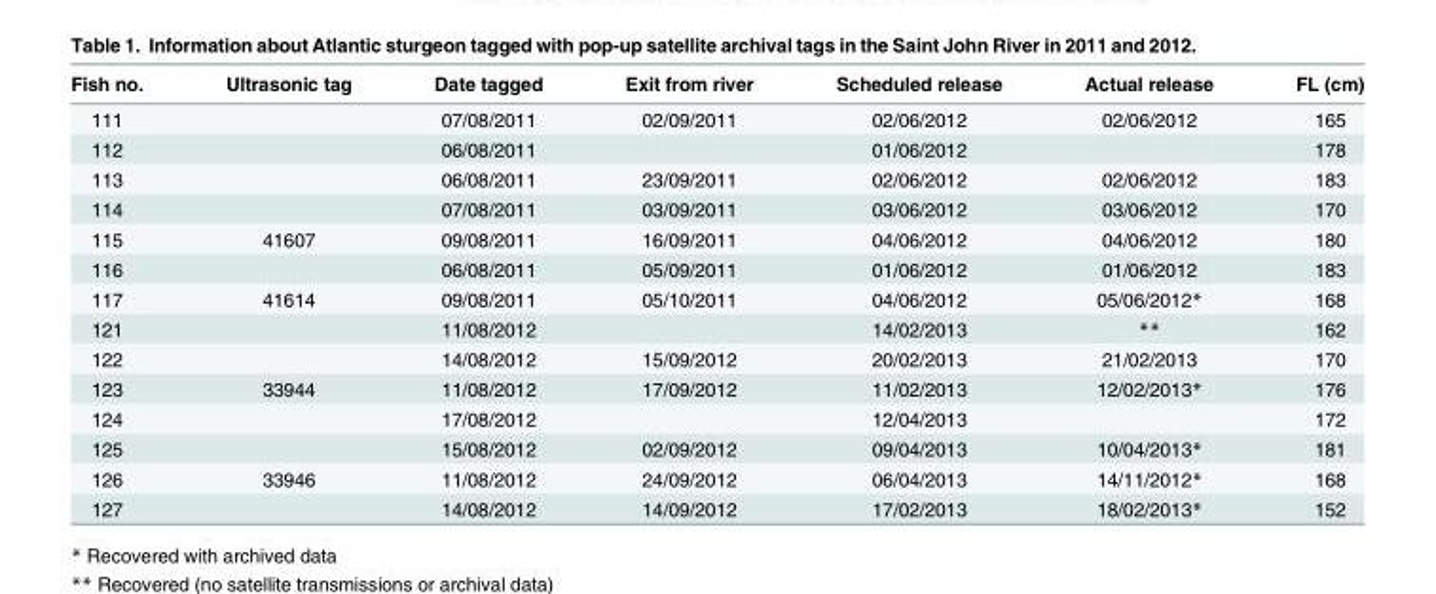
<table><thead><tr><td>Fish no.</td><td>Ultrasonic tag</td><td>Date tagged</td><td>Exit from river</td><td>Scheduled release</td><td>Actual release</td><td>FL (cm)</td></tr></thead><tbody><tr><td>111</td><td></td><td>07/08/2011</td><td>02/09/2011</td><td>02/06/2012</td><td>02/06/2012</td><td>165</td></tr><tr><td>112</td><td></td><td>06/08/2011</td><td></td><td>01/06/2012</td><td></td><td>178</td></tr><tr><td>113</td><td></td><td>06/08/2011</td><td>23/09/2011</td><td>02/06/2012</td><td>02/06/2012</td><td>183</td></tr><tr><td>114</td><td></td><td>07/08/2011</td><td>03/09/2011</td><td>03/06/2012</td><td>03/06/2012</td><td>170</td></tr><tr><td>115</td><td>41607</td><td>09/08/2011</td><td>16/09/2011</td><td>04/06/2012</td><td>04/06/2012</td><td>180</td></tr><tr><td>116</td><td></td><td>06/08/2011</td><td>05/09/2011</td><td>01/06/2012</td><td>01/06/2012</td><td>183</td></tr><tr><td>117</td><td>41614</td><td>09/08/2011</td><td>05/10/2011</td><td>04/06/2012</td><td>05/06/2012*</td><td>168</td></tr><tr><td>121</td><td></td><td>11/08/2012</td><td></td><td>14/02/2013</td><td>**</td><td>162</td></tr><tr><td>122</td><td></td><td>14/08/2012</td><td>15/09/2012</td><td>20/02/2013</td><td>21/02/2013</td><td>170</td></tr><tr><td>123</td><td>33944</td><td>11/08/2012</td><td>17/09/2012</td><td>11/02/2013</td><td>12/02/2013*</td><td>176</td></tr><tr><td>124</td><td></td><td>17/08/2012</td><td></td><td>12/04/2013</td><td></td><td>172</td></tr><tr><td>125</td><td></td><td>15/08/2012</td><td>02/09/2012</td><td>09/04/2013</td><td>10/04/2013*</td><td>181</td></tr><tr><td>126</td><td>33946</td><td>11/08/2012</td><td>24/09/2012</td><td>06/04/2013</td><td>14/11/2012*</td><td>168</td></tr><tr><td>127</td><td></td><td>14/08/2012</td><td>14/09/2012</td><td>17/02/2013</td><td>18/02/2013*</td><td>152</td></tr></tbody></table>